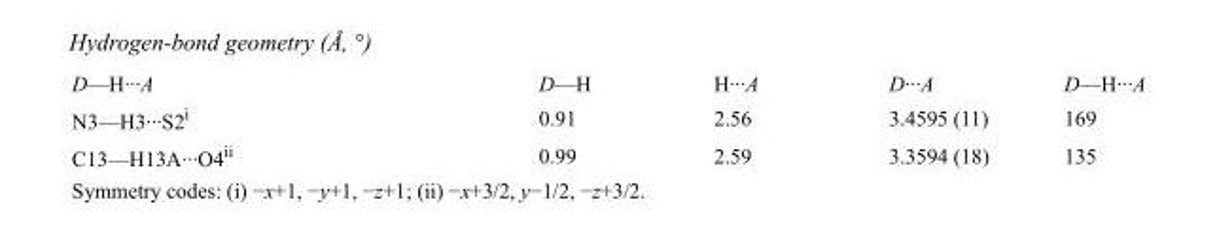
<table><tbody><tr><td>D—H···A</td><td>D—H</td><td>H···A</td><td>D···A</td><td>D—H···A</td></tr><tr><td>N3—H3···S2<sup>i</sup></td><td>0.91</td><td>2.56</td><td>3.4595 (11)</td><td>169</td></tr><tr><td>C13—H13A···O4<sup>ii</sup></td><td>0.99</td><td>2.59</td><td>3.3594 (18)</td><td>135</td></tr></tbody></table>